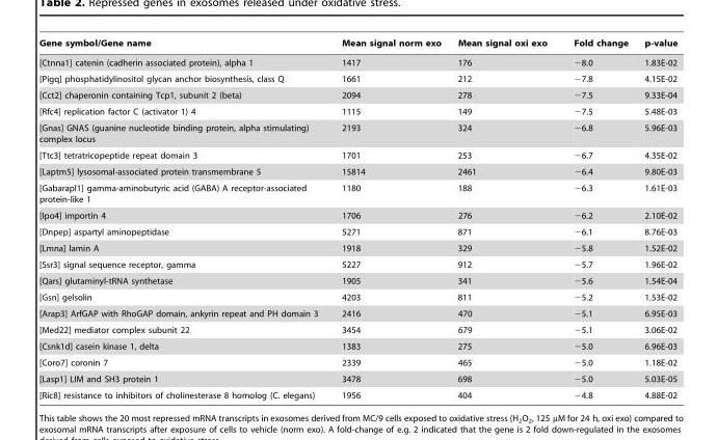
<table><thead><tr><td>Gene symbol/Gene name</td><td>Mean signal norm exo</td><td>Mean signal oxi exo</td><td>Fold change</td><td>p-value</td></tr></thead><tbody><tr><td>[Ctnna1] catenin (cadherin associated protein), alpha 1</td><td>1417</td><td>176</td><td>−8.0</td><td>1.83E-02</td></tr><tr><td>[Pigq] phosphatidylinositol glycan anchor biosynthesis, class Q</td><td>1661</td><td>212</td><td>−7.8</td><td>4.15E-02</td></tr><tr><td>[Cct2] chaperonin containing Tcp1, subunit 2 (beta)</td><td>2094</td><td>278</td><td>−7.5</td><td>9.33E-04</td></tr><tr><td>[Rfc4] replication factor C (activator 1) 4</td><td>1115</td><td>149</td><td>−7.5</td><td>5.48E-03</td></tr><tr><td>[Gnas] GNAS (guanine nucleotide binding protein, alpha stimulating) complex locus</td><td>2193</td><td>324</td><td>−6.8</td><td>5.96E-03</td></tr><tr><td>[Ttc3] tetratricopeptide repeat domain 3</td><td>1701</td><td>253</td><td>−6.7</td><td>4.35E-02</td></tr><tr><td>[Laptm5] lysosomal-associated protein transmembrane 5</td><td>15814</td><td>2461</td><td>−6.4</td><td>9.80E-03</td></tr><tr><td>[Gabarapl1] gamma-aminobutyric acid (GABA) A receptor-associated protein-like 1</td><td>1180</td><td>188</td><td>−6.3</td><td>1.61E-03</td></tr><tr><td>[Ipo4] importin 4</td><td>1706</td><td>276</td><td>−6.2</td><td>2.10E-02</td></tr><tr><td>[Dnpep] aspartyl aminopeptidase</td><td>5271</td><td>871</td><td>−6.1</td><td>8.76E-03</td></tr><tr><td>[Lmna] lamin A</td><td>1918</td><td>329</td><td>−5.8</td><td>1.52E-02</td></tr><tr><td>[Ssr3] signal sequence receptor, gamma</td><td>5227</td><td>912</td><td>−5.7</td><td>1.96E-02</td></tr><tr><td>[Qars] glutaminyl-tRNA synthetase</td><td>1905</td><td>341</td><td>−5.6</td><td>1.54E-04</td></tr><tr><td>[Gsn] gelsolin</td><td>4203</td><td>811</td><td>−5.2</td><td>1.53E-02</td></tr><tr><td>[Arap3] ArfGAP with RhoGAP domain, ankyrin repeat and PH domain 3</td><td>2416</td><td>470</td><td>−5.1</td><td>6.95E-03</td></tr><tr><td>[Med22] mediator complex subunit 22</td><td>3454</td><td>679</td><td>−5.1</td><td>3.06E-02</td></tr><tr><td>[Csnk1d] casein kinase 1, delta</td><td>1383</td><td>275</td><td>−5.0</td><td>6.96E-03</td></tr><tr><td>[Coro7] coronin 7</td><td>2339</td><td>465</td><td>−5.0</td><td>1.18E-02</td></tr><tr><td>[Lasp1] LIM and SH3 protein 1</td><td>3478</td><td>698</td><td>−5.0</td><td>5.03E-05</td></tr><tr><td>[Ric8] resistance to inhibitors of cholinesterase 8 homolog (C. elegans)</td><td>1956</td><td>404</td><td>−4.8</td><td>4.88E-02</td></tr></tbody></table>